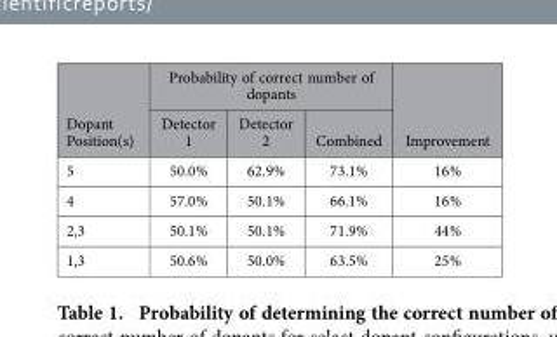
<table><thead><tr><td rowspan="2">Dopant Position(s)</td><td colspan="3">Probability of correct number of dopants</td><td rowspan="2">Improvement</td></tr><tr><td>Detector 1</td><td>Detector 2</td><td>Combined</td></tr></thead><tbody><tr><td>5</td><td>50.0%</td><td>62.9%</td><td>73.1%</td><td>16%</td></tr><tr><td>4</td><td>57.0%</td><td>50.1%</td><td>66.1%</td><td>16%</td></tr><tr><td>2,3</td><td>50.1%</td><td>50.1%</td><td>71.9%</td><td>44%</td></tr><tr><td>1,3</td><td>50.6%</td><td>50.0%</td><td>63.5%</td><td>25%</td></tr></tbody></table>